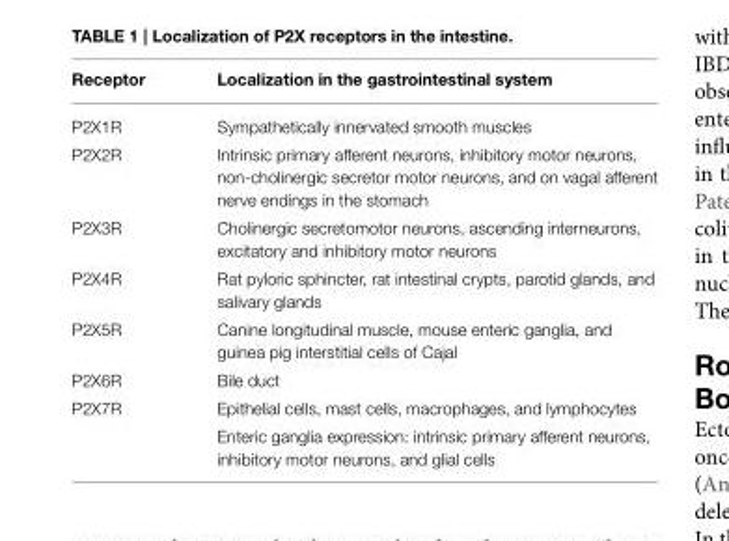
<table><thead><tr><td>Receptor</td><td>Localization in the gastrointestinal system</td></tr></thead><tbody><tr><td>P2X1R</td><td>Sympathetically innervated smooth muscles</td></tr><tr><td>P2X2R</td><td>Intrinsic primary afferent neurons, inhibitory motor neurons, non-cholinergic secretor motor neurons, and on vagal afferent nerve endings in the stomach</td></tr><tr><td>P2X3R</td><td>Cholinergic secretomotor neurons, ascending interneurons, excitatory and inhibitory motor neurons</td></tr><tr><td>P2X4R</td><td>Rat pyloric sphincter, rat intestinal crypts, parotid glands, and salivary glands</td></tr><tr><td>P2X5R</td><td>Canine longitudinal muscle, mouse enteric ganglia, and guinea pig interstitial cells of Cajal</td></tr><tr><td>P2X6R</td><td>Bile duct</td></tr><tr><td rowspan="2">P2X7R</td><td>Epithelial cells, mast cells, macrophages, and lymphocytes</td></tr><tr><td>Enteric ganglia expression: intrinsic primary afferent neurons, inhibitory motor neurons, and glial cells</td></tr></tbody></table>